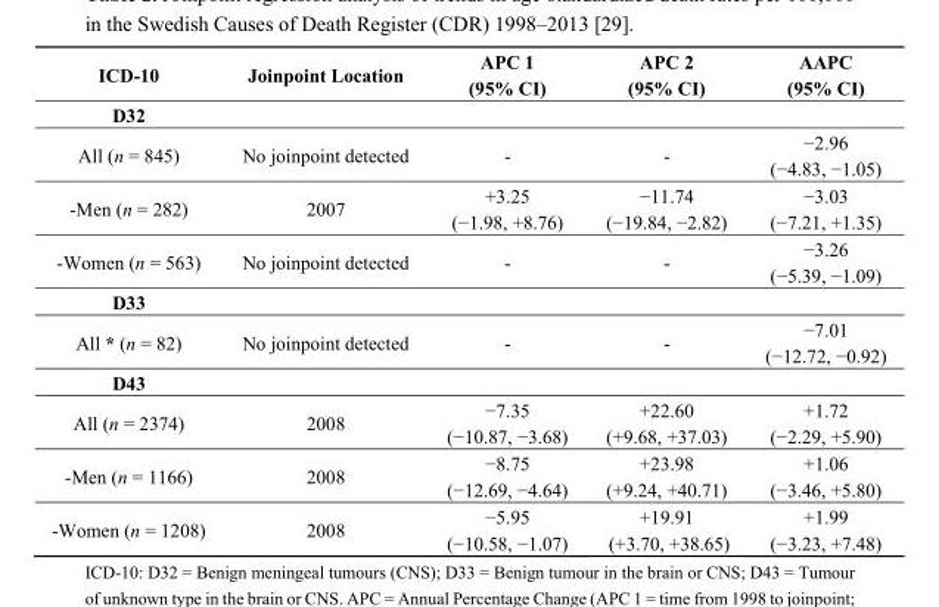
<table><thead><tr><td>ICD-10</td><td>Joinpoint Location</td><td>APC 1 (95% CI)</td><td>APC 2 (95% CI)</td><td>AAPC (95% CI)</td></tr></thead><tbody><tr><td colspan="5">D32</td></tr><tr><td>All (n = 845)</td><td>No joinpoint detected</td><td>-</td><td>-</td><td>−2.96 (−4.83, −1.05)</td></tr><tr><td>-Men (n = 282)</td><td>2007</td><td>+3.25 (−1.98, +8.76)</td><td>−11.74 (−19.84, −2.82)</td><td>−3.03 (−7.21, +1.35)</td></tr><tr><td>-Women (n = 563)</td><td>No joinpoint detected</td><td>-</td><td>-</td><td>−3.26 (−5.39, −1.09)</td></tr><tr><td colspan="5">D33</td></tr><tr><td>All * (n = 82)</td><td>No joinpoint detected</td><td>-</td><td>-</td><td>−7.01 (−12.72, −0.92)</td></tr><tr><td colspan="5">D43</td></tr><tr><td>All (n = 2374)</td><td>2008</td><td>−7.35 (−10.87, −3.68)</td><td>+22.60 (+9.68, +37.03)</td><td>+1.72 (−2.29, +5.90)</td></tr><tr><td>-Men (n = 1166)</td><td>2008</td><td>−8.75 (−12.69, −4.64)</td><td>+23.98 (+9.24, +40.71)</td><td>+1.06 (−3.46, +5.80)</td></tr><tr><td>-Women (n = 1208)</td><td>2008</td><td>−5.95 (−10.58, −1.07)</td><td>+19.91 (+3.70, +38.65)</td><td>+1.99 (−3.23, +7.48)</td></tr></tbody></table>